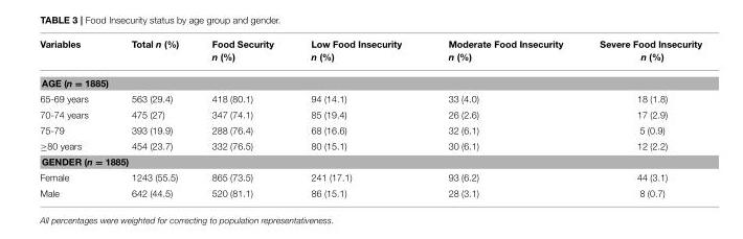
<table><thead><tr><td>Variables</td><td>Total n (%)</td><td>Food Security n (%)</td><td>Low Food Insecurity n (%)</td><td>Moderate Food Insecurity n (%)</td><td>Severe Food Insecurity n (%)</td></tr></thead><tbody><tr><td colspan="6">AGE (n = 1885)</td></tr><tr><td>65-69 years</td><td>563 (29.4)</td><td>418 (80.1)</td><td>94 (14.1)</td><td>33 (4.0)</td><td>18 (1.8)</td></tr><tr><td>70-74 years</td><td>475 (27)</td><td>347 (74.1)</td><td>85 (19.4)</td><td>26 (2.6)</td><td>17 (2.9)</td></tr><tr><td>75-79</td><td>393 (19.9)</td><td>288 (76.4)</td><td>68 (16.6)</td><td>32 (6.1)</td><td>5 (0.9)</td></tr><tr><td>≥80 years</td><td>454 (23.7)</td><td>332 (76.5)</td><td>80 (15.1)</td><td>30 (6.1)</td><td>12 (2.2)</td></tr><tr><td colspan="6">GENDER (n = 1885)</td></tr><tr><td>Female</td><td>1243 (55.5)</td><td>865 (73.5)</td><td>241 (17.1)</td><td>93 (6.2)</td><td>44 (3.1)</td></tr><tr><td>Male</td><td>642 (44.5)</td><td>520 (81.1)</td><td>86 (15.1)</td><td>28 (3.1)</td><td>8 (0.7)</td></tr></tbody></table>